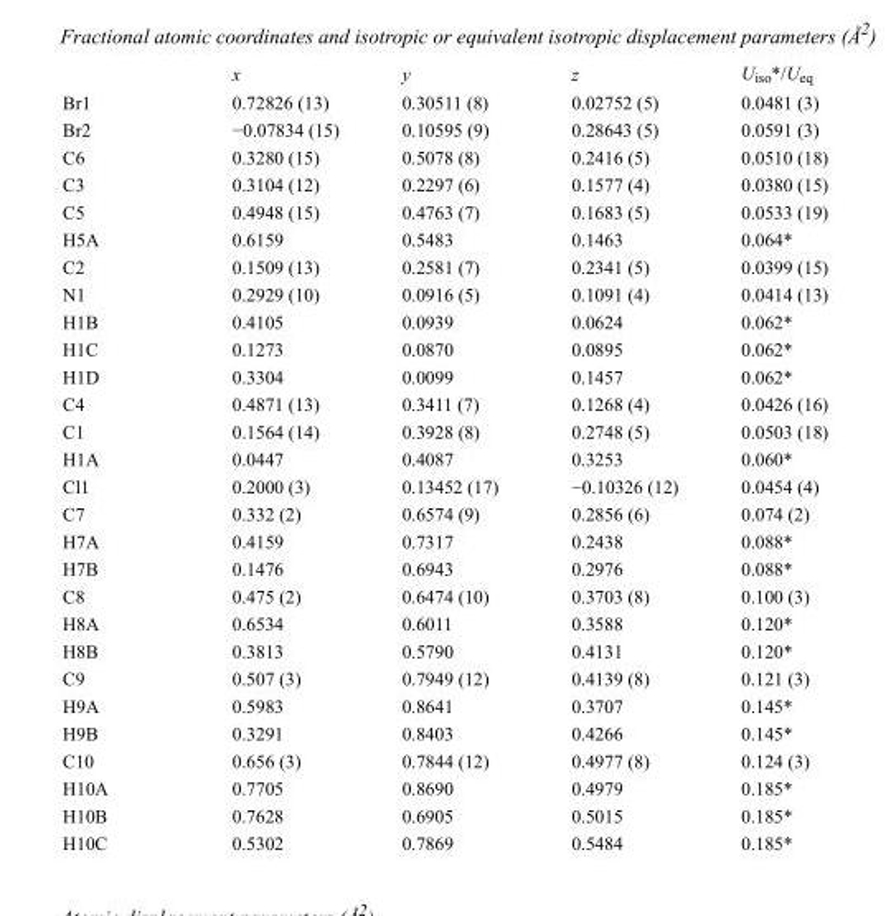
<table><thead><tr><td></td><td>x</td><td>y</td><td>z</td><td>U<sub>iso</sub>*/U<sub>eq</sub></td></tr></thead><tbody><tr><td>Br1</td><td>0.72826 (13)</td><td>0.30511 (8)</td><td>0.02752 (5)</td><td>0.0481 (3)</td></tr><tr><td>Br2</td><td>−0.07834 (15)</td><td>0.10595 (9)</td><td>0.28643 (5)</td><td>0.0591 (3)</td></tr><tr><td>C6</td><td>0.3280 (15)</td><td>0.5078 (8)</td><td>0.2416 (5)</td><td>0.0510 (18)</td></tr><tr><td>C3</td><td>0.3104 (12)</td><td>0.2297 (6)</td><td>0.1577 (4)</td><td>0.0380 (15)</td></tr><tr><td>C5</td><td>0.4948 (15)</td><td>0.4763 (7)</td><td>0.1683 (5)</td><td>0.0533 (19)</td></tr><tr><td>H5A</td><td>0.6159</td><td>0.5483</td><td>0.1463</td><td>0.064*</td></tr><tr><td>C2</td><td>0.1509 (13)</td><td>0.2581 (7)</td><td>0.2341 (5)</td><td>0.0399 (15)</td></tr><tr><td>N1</td><td>0.2929 (10)</td><td>0.0916 (5)</td><td>0.1091 (4)</td><td>0.0414 (13)</td></tr><tr><td>H1B</td><td>0.4105</td><td>0.0939</td><td>0.0624</td><td>0.062*</td></tr><tr><td>H1C</td><td>0.1273</td><td>0.0870</td><td>0.0895</td><td>0.062*</td></tr><tr><td>H1D</td><td>0.3304</td><td>0.0099</td><td>0.1457</td><td>0.062*</td></tr><tr><td>C4</td><td>0.4871 (13)</td><td>0.3411 (7)</td><td>0.1268 (4)</td><td>0.0426 (16)</td></tr><tr><td>C1</td><td>0.1564 (14)</td><td>0.3928 (8)</td><td>0.2748 (5)</td><td>0.0503 (18)</td></tr><tr><td>H1A</td><td>0.0447</td><td>0.4087</td><td>0.3253</td><td>0.060*</td></tr><tr><td>Cl1</td><td>0.2000 (3)</td><td>0.13452 (17)</td><td>−0.10326 (12)</td><td>0.0454 (4)</td></tr><tr><td>C7</td><td>0.332 (2)</td><td>0.6574 (9)</td><td>0.2856 (6)</td><td>0.074 (2)</td></tr><tr><td>H7A</td><td>0.4159</td><td>0.7317</td><td>0.2438</td><td>0.088*</td></tr><tr><td>H7B</td><td>0.1476</td><td>0.6943</td><td>0.2976</td><td>0.088*</td></tr><tr><td>C8</td><td>0.475 (2)</td><td>0.6474 (10)</td><td>0.3703 (8)</td><td>0.100 (3)</td></tr><tr><td>H8A</td><td>0.6534</td><td>0.6011</td><td>0.3588</td><td>0.120*</td></tr><tr><td>H8B</td><td>0.3813</td><td>0.5790</td><td>0.4131</td><td>0.120*</td></tr><tr><td>C9</td><td>0.507 (3)</td><td>0.7949 (12)</td><td>0.4139 (8)</td><td>0.121 (3)</td></tr><tr><td>H9A</td><td>0.5983</td><td>0.8641</td><td>0.3707</td><td>0.145*</td></tr><tr><td>H9B</td><td>0.3291</td><td>0.8403</td><td>0.4266</td><td>0.145*</td></tr><tr><td>C10</td><td>0.656 (3)</td><td>0.7844 (12)</td><td>0.4977 (8)</td><td>0.124 (3)</td></tr><tr><td>H10A</td><td>0.7705</td><td>0.8690</td><td>0.4979</td><td>0.185*</td></tr><tr><td>H10B</td><td>0.7628</td><td>0.6905</td><td>0.5015</td><td>0.185*</td></tr><tr><td>H10C</td><td>0.5302</td><td>0.7869</td><td>0.5484</td><td>0.185*</td></tr></tbody></table>